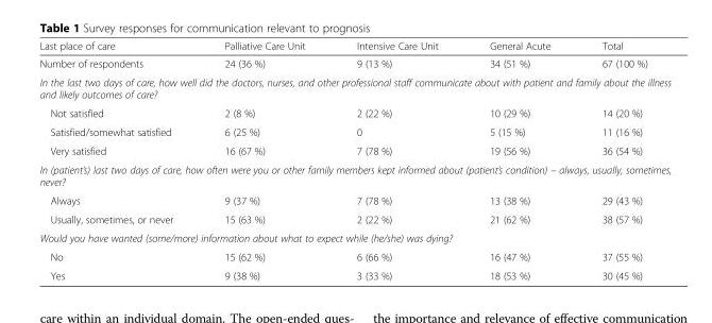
<table><thead><tr><td>Last place of care</td><td>Palliative Care Unit</td><td>Intensive Care Unit</td><td>General Acute</td><td>Total</td></tr></thead><tbody><tr><td>Number of respondents</td><td>24 (36 %)</td><td>9 (13 %)</td><td>34 (51 %)</td><td>67 (100 %)</td></tr><tr><td colspan="5">In the last two days of care, how well did the doctors, nurses, and other professional staff communicate about with patient and family about the illness and likely outcomes of care?</td></tr><tr><td>Not satisfied</td><td>2 (8 %)</td><td>2 (22 %)</td><td>10 (29 %)</td><td>14 (20 %)</td></tr><tr><td>Satisfied/somewhat satisfied</td><td>6 (25 %)</td><td>0</td><td>5 (15 %)</td><td>11 (16 %)</td></tr><tr><td>Very satisfied</td><td>16 (67 %)</td><td>7 (78 %)</td><td>19 (56 %)</td><td>36 (54 %)</td></tr><tr><td colspan="5">In (patient’s) last two days of care, how often were you or other family members kept informed about (patient’s condition) – always, usually, sometimes, never?</td></tr><tr><td>Always</td><td>9 (37 %)</td><td>7 (78 %)</td><td>13 (38 %)</td><td>29 (43 %)</td></tr><tr><td>Usually, sometimes, or never</td><td>15 (63 %)</td><td>2 (22 %)</td><td>21 (62 %)</td><td>38 (57 %)</td></tr><tr><td colspan="5">Would you have wanted (some/more) information about what to expect while (he/she) was dying?</td></tr><tr><td>No</td><td>15 (62 %)</td><td>6 (66 %)</td><td>16 (47 %)</td><td>37 (55 %)</td></tr><tr><td>Yes</td><td>9 (38 %)</td><td>3 (33 %)</td><td>18 (53 %)</td><td>30 (45 %)</td></tr></tbody></table>